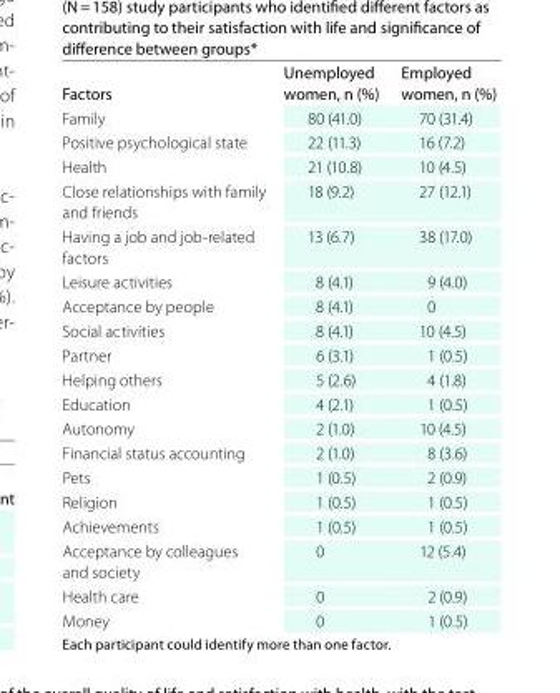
<table><thead><tr><td>Factors</td><td>unemployed women, n (%)</td><td>employed women, n (%)</td></tr></thead><tbody><tr><td>Family</td><td>80 (41.0)</td><td>70 (31.4)</td></tr><tr><td>Positive psychological state</td><td>22 (11.3)</td><td>16 (7.2)</td></tr><tr><td>Health</td><td>21 (10.8)</td><td>10 (4.5)</td></tr><tr><td>Close relationships with family and friends</td><td>18 (9.2)</td><td>27 (12.1)</td></tr><tr><td>Having a job and job-related factors</td><td>13 (6.7)</td><td>38 (17.0)</td></tr><tr><td>Leisure activities</td><td>8 (4.1)</td><td>9 (4.0)</td></tr><tr><td>Acceptance by people</td><td>8 (4.1)</td><td>0</td></tr><tr><td>Social activities</td><td>8 (4.1)</td><td>10 (4.5)</td></tr><tr><td>Partner</td><td>6 (3.1)</td><td>1 (0.5)</td></tr><tr><td>Helping others</td><td>5 (2.6)</td><td>4 (1.8)</td></tr><tr><td>Education</td><td>4 (2.1)</td><td>1 (0.5)</td></tr><tr><td>Autonomy</td><td>2 (1.0)</td><td>10 (4.5)</td></tr><tr><td>Financial status accounting</td><td>2 (1.0)</td><td>8 (3.6)</td></tr><tr><td>Pets</td><td>1 (0.5)</td><td>2 (0.9)</td></tr><tr><td>Religion</td><td>1 (0.5)</td><td>1 (0.5)</td></tr><tr><td>Achievements</td><td>1 (0.5)</td><td>1 (0.5)</td></tr><tr><td>Acceptance by colleagues and society</td><td>0</td><td>12 (5.4)</td></tr><tr><td>Health care</td><td>0</td><td>2 (0.9)</td></tr><tr><td>Money</td><td>0</td><td>1 (0.5)</td></tr></tbody></table>